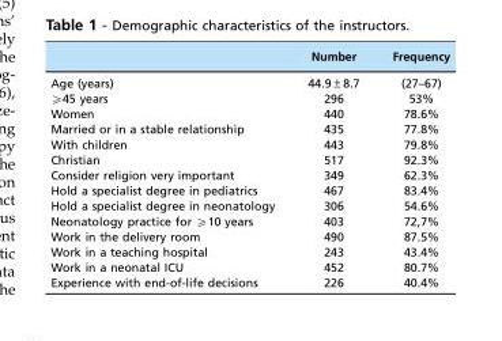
<table><thead><tr><td></td><td>Number</td><td>Frequency</td></tr></thead><tbody><tr><td>Age (years)</td><td>44.9±8.7</td><td>(27–67)</td></tr><tr><td>≥45 years</td><td>296</td><td>53%</td></tr><tr><td>Women</td><td>440</td><td>78.6%</td></tr><tr><td>Married or in a stable relationship</td><td>435</td><td>77.8%</td></tr><tr><td>With children</td><td>443</td><td>79.8%</td></tr><tr><td>Christian</td><td>517</td><td>92.3%</td></tr><tr><td>Consider religion very important</td><td>349</td><td>62.3%</td></tr><tr><td>Hold a specialist degree in pediatrics</td><td>467</td><td>83.4%</td></tr><tr><td>Hold a specialist degree in neonatology</td><td>306</td><td>54.6%</td></tr><tr><td>Neonatology practice for ≥10 years</td><td>403</td><td>72,7%</td></tr><tr><td>Work in the delivery room</td><td>490</td><td>87.5%</td></tr><tr><td>Work in a teaching hospital</td><td>243</td><td>43.4%</td></tr><tr><td>Work in a neonatal ICU</td><td>452</td><td>80.7%</td></tr><tr><td>Experience with end-of-life decisions</td><td>226</td><td>40.4%</td></tr></tbody></table>